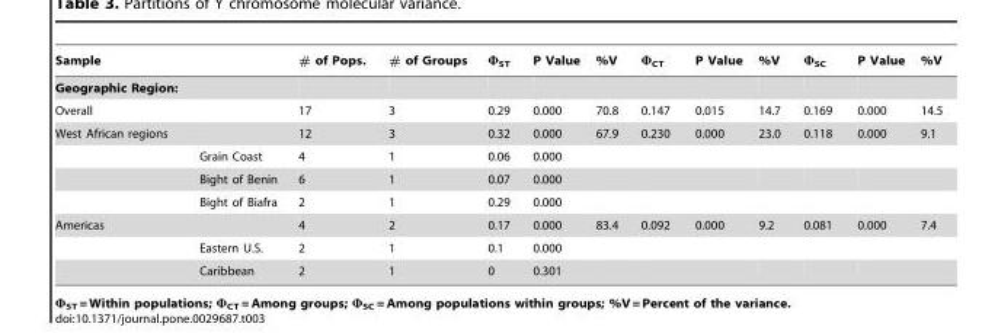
<table><thead><tr><td>Sample</td><td></td><td># of Pops.</td><td># of Groups</td><td>Φ<sub>ST</sub></td><td>P Value</td><td>%V</td><td>Φ<sub>CT</sub></td><td>P Value</td><td>%V</td><td>Φ<sub>SC</sub></td><td>P Value</td><td>%V</td></tr></thead><tbody><tr><td colspan="13">Geographic Region:</td></tr><tr><td>Overall</td><td></td><td>17</td><td>3</td><td>0.29</td><td>0.000</td><td>70.8</td><td>0.147</td><td>0.015</td><td>14.7</td><td>0.169</td><td>0.000</td><td>14.5</td></tr><tr><td rowspan="4">West African regions</td><td></td><td>12</td><td>3</td><td>0.32</td><td>0.000</td><td>67.9</td><td>0.230</td><td>0.000</td><td>23.0</td><td>0.118</td><td>0.000</td><td>9.1</td></tr><tr><td>Grain Coast</td><td>4</td><td>1</td><td>0.06</td><td>0.000</td><td></td><td></td><td></td><td></td><td></td><td></td><td></td></tr><tr><td>Bight of Benin</td><td>6</td><td>1</td><td>0.07</td><td>0.000</td><td></td><td></td><td></td><td></td><td></td><td></td><td></td></tr><tr><td>Bight of Biafra</td><td>2</td><td>1</td><td>0.29</td><td>0.000</td><td></td><td></td><td></td><td></td><td></td><td></td><td></td></tr><tr><td rowspan="3">Americas</td><td></td><td>4</td><td>2</td><td>0.17</td><td>0.000</td><td>83.4</td><td>0.092</td><td>0.000</td><td>9.2</td><td>0.081</td><td>0.000</td><td>7.4</td></tr><tr><td>Eastern U.S.</td><td>2</td><td>1</td><td>0.1</td><td>0.000</td><td></td><td></td><td></td><td></td><td></td><td></td><td></td></tr><tr><td>Caribbean</td><td>2</td><td>1</td><td>0</td><td>0.301</td><td></td><td></td><td></td><td></td><td></td><td></td><td></td></tr></tbody></table>